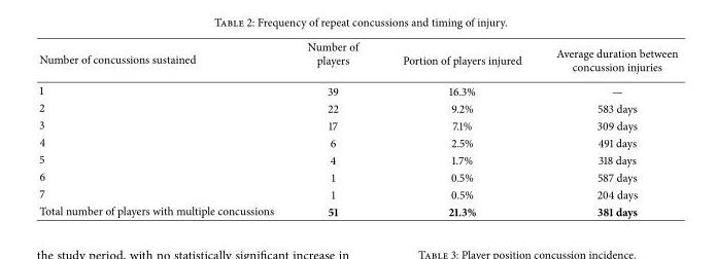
<table><thead><tr><td>Number of concussions sustained</td><td>Number of players</td><td>Portion of players injured</td><td>Average duration between concussion injuries</td></tr></thead><tbody><tr><td>1</td><td>39</td><td>16.3%</td><td>—</td></tr><tr><td>2</td><td>22</td><td>9.2%</td><td>583 days</td></tr><tr><td>3</td><td>17</td><td>7.1%</td><td>309 days</td></tr><tr><td>4</td><td>6</td><td>2.5%</td><td>491 days</td></tr><tr><td>5</td><td>4</td><td>1.7%</td><td>318 days</td></tr><tr><td>6</td><td>1</td><td>0.5%</td><td>587 days</td></tr><tr><td>7</td><td>1</td><td>0.5%</td><td>204 days</td></tr><tr><td>Total number of players with multiple concussions</td><td>51</td><td>21.3%</td><td>381 days</td></tr></tbody></table>